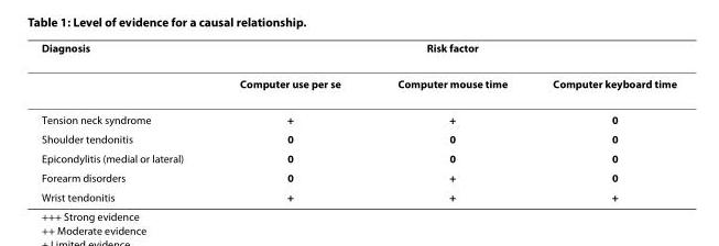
<table><thead><tr><td rowspan="2">Diagnosis</td><td colspan="3">Risk factor</td></tr><tr><td>Computer use per se</td><td>Computer mouse time</td><td>Computer keyboard time</td></tr></thead><tbody><tr><td>Tension neck syndrome</td><td>+</td><td>+</td><td>0</td></tr><tr><td>Shoulder tendonitis</td><td>0</td><td>0</td><td>0</td></tr><tr><td>Epicondylitis (medial or lateral)</td><td>0</td><td>0</td><td>0</td></tr><tr><td>Forearm disorders</td><td>0</td><td>+</td><td>0</td></tr><tr><td>Wrist tendonitis</td><td>+</td><td>+</td><td>+</td></tr></tbody></table>